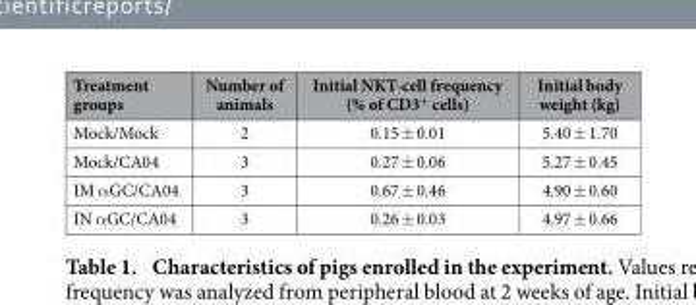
<table><thead><tr><td>Treatment groups</td><td>Number of animals</td><td>Initial NKT-cell frequency (% of CD3<sup>+</sup> cells)</td><td>Initial body weight (kg)</td></tr></thead><tbody><tr><td>Mock/Mock</td><td>2</td><td>0.15 ± 0.01</td><td>5.40 ± 1.70</td></tr><tr><td>Mock/CA04</td><td>3</td><td>0.27 ± 0.06</td><td>5.27 ± 0.45</td></tr><tr><td>IM α GC/CA04</td><td>3</td><td>0.67 ± 0.46</td><td>4.90 ± 0.60</td></tr><tr><td>IN α GC/CA04</td><td>3</td><td>0.26 ± 0.03</td><td>4.97 ± 0.66</td></tr></tbody></table>